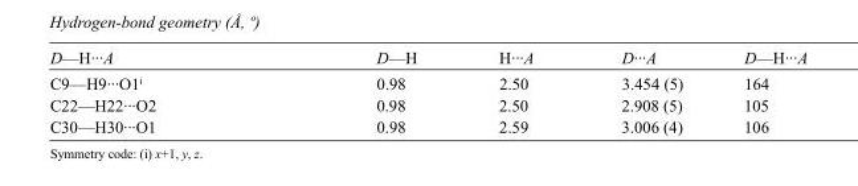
<table><tbody><tr><td>D—H···A</td><td>D—H</td><td>H···A</td><td>D···A</td><td>D—H···A</td></tr><tr><td>C9—H9···O1<sup>i</sup></td><td>0.98</td><td>2.50</td><td>3.454 (5)</td><td>164</td></tr><tr><td>C22—H22···O2</td><td>0.98</td><td>2.50</td><td>2.908 (5)</td><td>105</td></tr><tr><td>C30—H30···O1</td><td>0.98</td><td>2.59</td><td>3.006 (4)</td><td>106</td></tr></tbody></table>